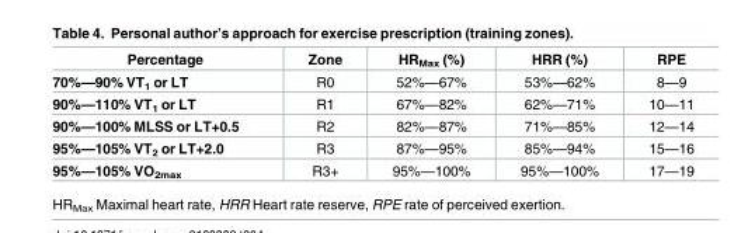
<table><thead><tr><td>Percentage</td><td>Zone</td><td>HR<sub>Max</sub> (%)</td><td>HRR (%)</td><td>RPE</td></tr></thead><tbody><tr><td>70%—90% VT<sub>1</sub> or LT</td><td>R0</td><td>52%—67%</td><td>53%—62%</td><td>8—9</td></tr><tr><td>90%—110% VT<sub>1</sub> or LT</td><td>R1</td><td>67%—82%</td><td>62%—71%</td><td>10—11</td></tr><tr><td>90%—100% MLSS or LT+0.5</td><td>R2</td><td>82%—87%</td><td>71%—85%</td><td>12—14</td></tr><tr><td>95%—105% VT<sub>2</sub> or LT+2.0</td><td>R3</td><td>87%—95%</td><td>85%—94%</td><td>15—16</td></tr><tr><td>95%—105% VO<sub>2max</sub></td><td>R3+</td><td>95%—100%</td><td>95%—100%</td><td>17—19</td></tr></tbody></table>